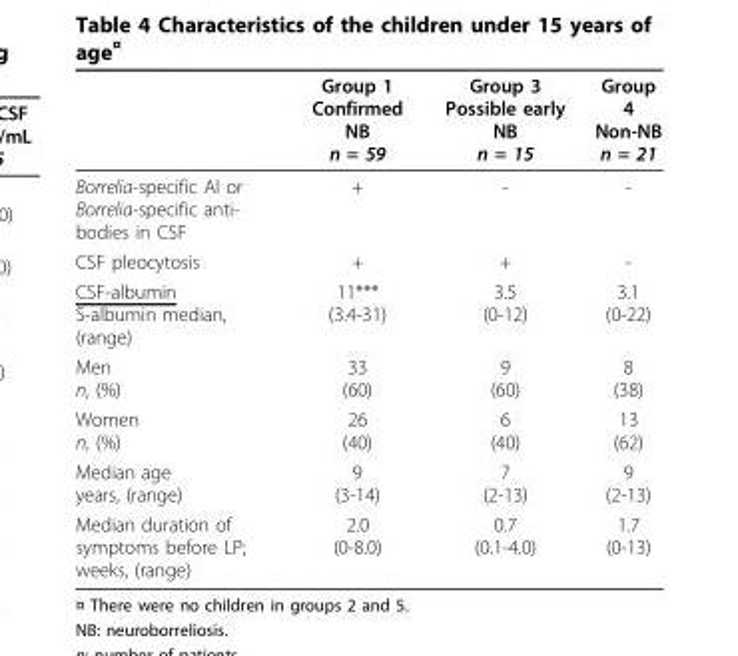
<table><thead><tr><td></td><td>Group 1 Confirmed NB n = 59</td><td>Group 3 Possible early NB n = 15</td><td>Group 4 Non-NB n = 21</td></tr></thead><tbody><tr><td>Borrelia-specific AI or Borrelia-specific anti- bodies in CSF</td><td>+</td><td>-</td><td>-</td></tr><tr><td>CSF pleocytosis</td><td>+</td><td>+</td><td>-</td></tr><tr><td>CSF-albumin S-albumin median, (range)</td><td>11*** (3.4-31)</td><td>3.5 (0-12)</td><td>3.1 (0-22)</td></tr><tr><td>Men n, (%)</td><td>33 (60)</td><td>9 (60)</td><td>8 (38)</td></tr><tr><td>Women n, (%)</td><td>26 (40)</td><td>6 (40)</td><td>13 (62)</td></tr><tr><td>Median age years, (range)</td><td>9 (3-14)</td><td>7 (2-13)</td><td>9 (2-13)</td></tr><tr><td>Median duration of symptoms before LP; weeks, (range)</td><td>2.0 (0-8.0)</td><td>0.7 (0.1-4.0)</td><td>1.7 (0-13)</td></tr></tbody></table>